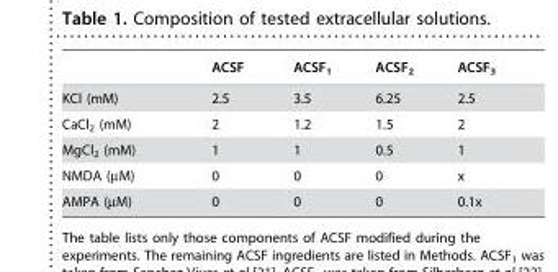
<table><thead><tr><td></td><td>ACSF</td><td>ACSF<sub>1</sub></td><td>ACSF<sub>2</sub></td><td>ACSF<sub>3</sub></td></tr></thead><tbody><tr><td>KCl (mM)</td><td>2.5</td><td>3.5</td><td>6.25</td><td>2.5</td></tr><tr><td>CaCl<sub>2</sub> (mM)</td><td>2</td><td>1.2</td><td>1.5</td><td>2</td></tr><tr><td>MgCl<sub>2</sub> (mM)</td><td>1</td><td>1</td><td>0.5</td><td>1</td></tr><tr><td>NMDA (µM)</td><td>0</td><td>0</td><td>0</td><td>x</td></tr><tr><td>AMPA (µM)</td><td>0</td><td>0</td><td>0</td><td>0.1x</td></tr></tbody></table>